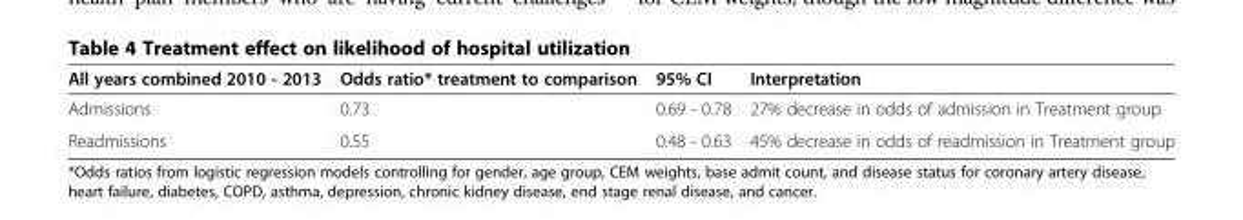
<table><thead><tr><td>All years combined 2010 - 2013</td><td>Odds ratio* treatment to comparison</td><td>95% CI</td><td>Interpretation</td></tr></thead><tbody><tr><td>Admissions</td><td>0.73</td><td>0.69 - 0.78</td><td>27% decrease in odds of admission in Treatment group</td></tr><tr><td>Readmissions</td><td>0.55</td><td>0.48 - 0.63</td><td>45% decrease in odds of readmission in Treatment group</td></tr></tbody></table>